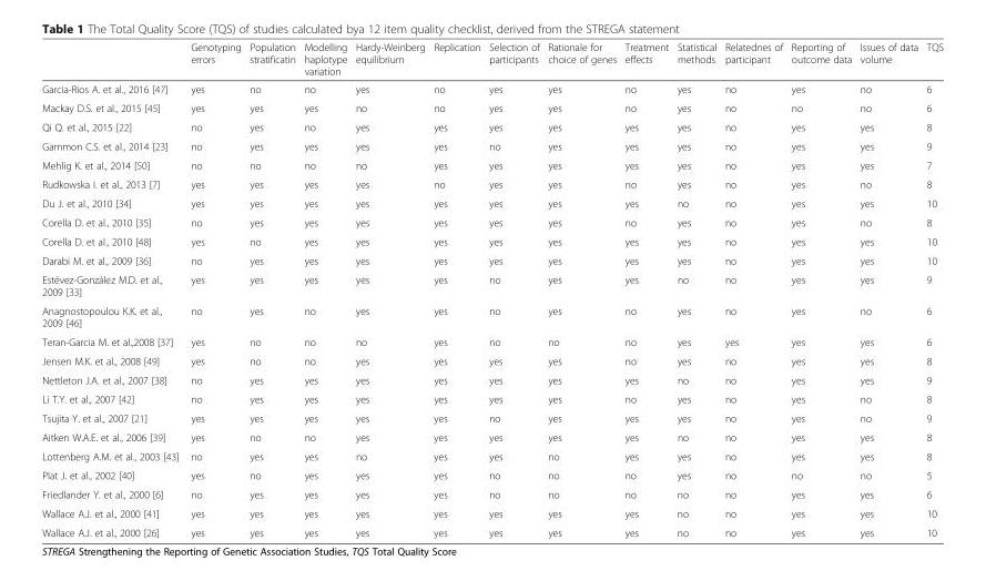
<table><thead><tr><td></td><td>Genotyping errors</td><td>Population stratificatin</td><td>Modelling haplotype variation</td><td>Hardy-Weinberg equilibrium</td><td>Replication</td><td>Selection of participants</td><td>Rationale for choice of genes</td><td>Treatment effects</td><td>Statistical methods</td><td>Relatednes of participant</td><td>Reporting of outcome data</td><td>Issues of data volume</td><td>TQS</td></tr></thead><tbody><tr><td>Garcia-Rios A. et al., 2016 [47]</td><td>yes</td><td>no</td><td>no</td><td>yes</td><td>no</td><td>yes</td><td>yes</td><td>no</td><td>yes</td><td>no</td><td>yes</td><td>no</td><td>6</td></tr><tr><td>Mackay D.S. et al., 2015 [45]</td><td>yes</td><td>yes</td><td>yes</td><td>no</td><td>no</td><td>yes</td><td>yes</td><td>no</td><td>yes</td><td>no</td><td>no</td><td>no</td><td>6</td></tr><tr><td>Qi Q. et al., 2015 [22]</td><td>no</td><td>yes</td><td>no</td><td>yes</td><td>yes</td><td>yes</td><td>yes</td><td>yes</td><td>yes</td><td>no</td><td>yes</td><td>yes</td><td>8</td></tr><tr><td>Gammon C.S. et al., 2014 [23]</td><td>no</td><td>yes</td><td>yes</td><td>yes</td><td>yes</td><td>no</td><td>yes</td><td>yes</td><td>yes</td><td>no</td><td>yes</td><td>yes</td><td>9</td></tr><tr><td>Mehlig K. et al., 2014 [50]</td><td>no</td><td>no</td><td>no</td><td>no</td><td>yes</td><td>yes</td><td>yes</td><td>yes</td><td>yes</td><td>no</td><td>yes</td><td>yes</td><td>7</td></tr><tr><td>Rudkowska I. et al., 2013 [7]</td><td>yes</td><td>yes</td><td>yes</td><td>yes</td><td>no</td><td>yes</td><td>yes</td><td>no</td><td>yes</td><td>no</td><td>yes</td><td>no</td><td>8</td></tr><tr><td>Du J. et al., 2010 [34]</td><td>yes</td><td>yes</td><td>yes</td><td>yes</td><td>yes</td><td>yes</td><td>yes</td><td>yes</td><td>no</td><td>no</td><td>yes</td><td>yes</td><td>10</td></tr><tr><td>Corella D. et al., 2010 [35]</td><td>no</td><td>yes</td><td>yes</td><td>yes</td><td>yes</td><td>yes</td><td>yes</td><td>no</td><td>yes</td><td>no</td><td>yes</td><td>no</td><td>8</td></tr><tr><td>Corella D. et al., 2010 [48]</td><td>yes</td><td>no</td><td>yes</td><td>yes</td><td>yes</td><td>yes</td><td>yes</td><td>yes</td><td>yes</td><td>no</td><td>yes</td><td>yes</td><td>10</td></tr><tr><td>Darabi M. et al., 2009 [36]</td><td>no</td><td>yes</td><td>yes</td><td>yes</td><td>yes</td><td>yes</td><td>yes</td><td>yes</td><td>yes</td><td>no</td><td>yes</td><td>yes</td><td>10</td></tr><tr><td>Estévez-González M.D. et al., 2009 [33]</td><td>yes</td><td>yes</td><td>yes</td><td>yes</td><td>yes</td><td>no</td><td>yes</td><td>yes</td><td>no</td><td>no</td><td>yes</td><td>yes</td><td>9</td></tr><tr><td>Anagnostopoulou K.K. et al., 2009 [46]</td><td>no</td><td>yes</td><td>no</td><td>yes</td><td>yes</td><td>no</td><td>yes</td><td>no</td><td>yes</td><td>no</td><td>yes</td><td>no</td><td>6</td></tr><tr><td>Teran-Garcia M. et al.,2008 [37]</td><td>yes</td><td>no</td><td>no</td><td>no</td><td>yes</td><td>no</td><td>no</td><td>no</td><td>yes</td><td>yes</td><td>yes</td><td>yes</td><td>6</td></tr><tr><td>Jensen M.K. et al., 2008 [49]</td><td>yes</td><td>no</td><td>no</td><td>yes</td><td>yes</td><td>yes</td><td>yes</td><td>no</td><td>yes</td><td>no</td><td>yes</td><td>yes</td><td>8</td></tr><tr><td>Nettleton J.A. et al., 2007 [38]</td><td>no</td><td>yes</td><td>yes</td><td>yes</td><td>yes</td><td>yes</td><td>yes</td><td>yes</td><td>no</td><td>no</td><td>yes</td><td>yes</td><td>9</td></tr><tr><td>Li T.Y. et al., 2007 [42]</td><td>no</td><td>yes</td><td>yes</td><td>yes</td><td>yes</td><td>yes</td><td>yes</td><td>no</td><td>yes</td><td>no</td><td>yes</td><td>no</td><td>8</td></tr><tr><td>Tsujita Y. et al., 2007 [21]</td><td>yes</td><td>yes</td><td>yes</td><td>yes</td><td>yes</td><td>no</td><td>yes</td><td>yes</td><td>yes</td><td>no</td><td>yes</td><td>no</td><td>9</td></tr><tr><td>Aitken W.A.E. et al., 2006 [39]</td><td>yes</td><td>no</td><td>no</td><td>yes</td><td>yes</td><td>yes</td><td>yes</td><td>yes</td><td>no</td><td>no</td><td>yes</td><td>yes</td><td>8</td></tr><tr><td>Lottenberg A.M. et al., 2003 [43]</td><td>no</td><td>yes</td><td>yes</td><td>no</td><td>yes</td><td>yes</td><td>no</td><td>yes</td><td>yes</td><td>no</td><td>yes</td><td>yes</td><td>8</td></tr><tr><td>Plat J. et al., 2002 [40]</td><td>yes</td><td>no</td><td>yes</td><td>yes</td><td>yes</td><td>no</td><td>no</td><td>no</td><td>yes</td><td>no</td><td>no</td><td>no</td><td>5</td></tr><tr><td>Friedlander Y. et al., 2000 [6]</td><td>no</td><td>yes</td><td>yes</td><td>yes</td><td>yes</td><td>no</td><td>no</td><td>no</td><td>no</td><td>no</td><td>yes</td><td>yes</td><td>6</td></tr><tr><td>Wallace A.J. et al., 2000 [41]</td><td>yes</td><td>yes</td><td>yes</td><td>yes</td><td>yes</td><td>yes</td><td>yes</td><td>yes</td><td>no</td><td>no</td><td>yes</td><td>yes</td><td>10</td></tr><tr><td>Wallace A.J. et al., 2000 [26]</td><td>yes</td><td>yes</td><td>yes</td><td>yes</td><td>yes</td><td>yes</td><td>yes</td><td>yes</td><td>no</td><td>no</td><td>yes</td><td>yes</td><td>10</td></tr></tbody></table>